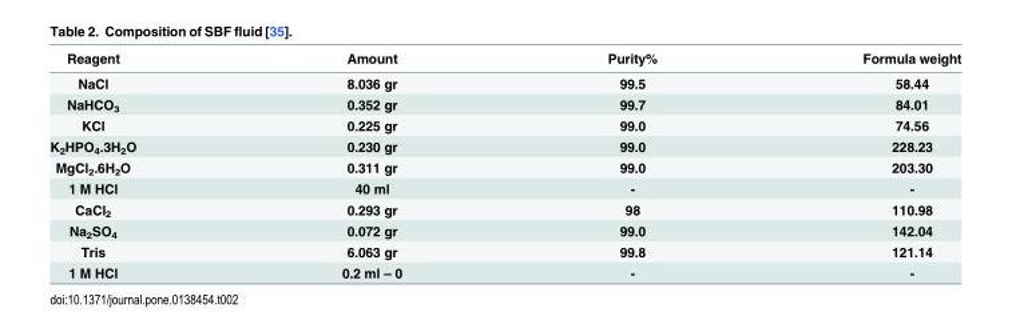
<table><thead><tr><td>Reagent</td><td>Amount</td><td>Purity%</td><td>Formula weight</td></tr></thead><tbody><tr><td>NaCl</td><td>8.036 gr</td><td>99.5</td><td>58.44</td></tr><tr><td>NaHCO<sub>3</sub></td><td>0.352 gr</td><td>99.7</td><td>84.01</td></tr><tr><td>KCl</td><td>0.225 gr</td><td>99.0</td><td>74.56</td></tr><tr><td>K<sub>2</sub>HPO<sub>4</sub>.3H<sub>2</sub>O</td><td>0.230 gr</td><td>99.0</td><td>228.23</td></tr><tr><td>MgCl<sub>2</sub>.6H<sub>2</sub>O</td><td>0.311 gr</td><td>99.0</td><td>203.30</td></tr><tr><td>1 M HCl</td><td>40 ml</td><td>-</td><td>-</td></tr><tr><td>CaCl<sub>2</sub></td><td>0.293 gr</td><td>98</td><td>110.98</td></tr><tr><td>Na<sub>2</sub>SO<sub>4</sub></td><td>0.072 gr</td><td>99.0</td><td>142.04</td></tr><tr><td>Tris</td><td>6.063 gr</td><td>99.8</td><td>121.14</td></tr><tr><td>1 M HCl</td><td>0.2 ml – 0</td><td>-</td><td>-</td></tr></tbody></table>